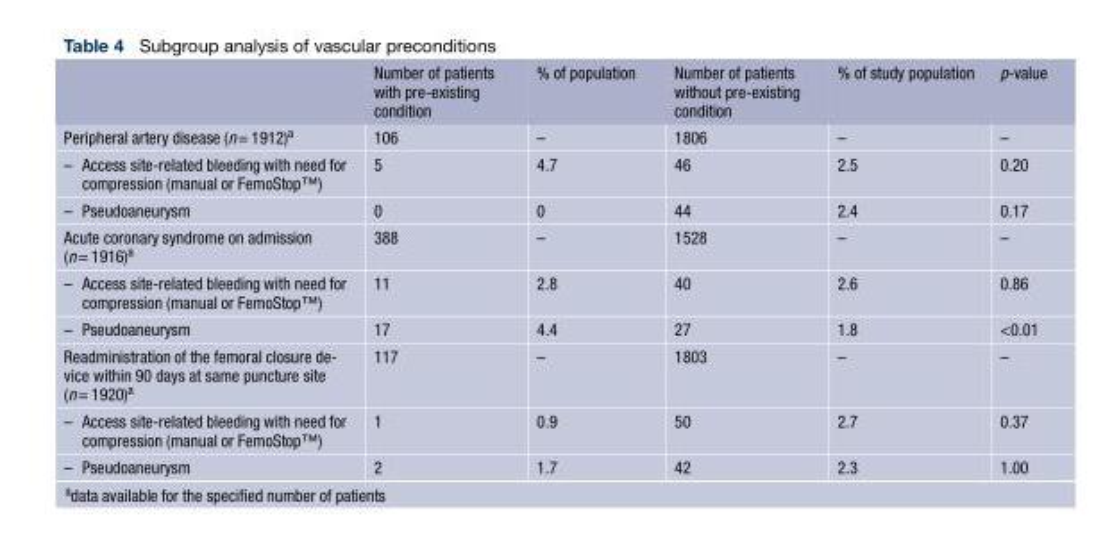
<table><thead><tr><td></td><td>Number of patients with pre-existing condition</td><td>% of population</td><td>Number of patients without pre-existing condition</td><td>% of study population</td><td>p-value</td></tr></thead><tbody><tr><td>Peripheral artery disease (n= 1912)<sup>a</sup></td><td>106</td><td>–</td><td>1806</td><td>–</td><td>–</td></tr><tr><td>– Access site-related bleeding with need for compression (manual or FemoStop™)</td><td>5</td><td>4.7</td><td>46</td><td>2.5</td><td>0.20</td></tr><tr><td>– Pseudoaneurysm</td><td>0</td><td>0</td><td>44</td><td>2.4</td><td>0.17</td></tr><tr><td>Acute coronary syndrome on admission (n= 1916)<sup>a</sup></td><td>388</td><td>–</td><td>1528</td><td>–</td><td>–</td></tr><tr><td>– Access site-related bleeding with need for compression (manual or FemoStop™)</td><td>11</td><td>2.8</td><td>40</td><td>2.6</td><td>0.86</td></tr><tr><td>– Pseudoaneurysm</td><td>17</td><td>4.4</td><td>27</td><td>1.8</td><td>&lt;0.01</td></tr><tr><td>Readministration of the femoral closure de- vice within 90 days at same puncture site (n= 1920)a</td><td>117</td><td>–</td><td>1803</td><td>–</td><td>–</td></tr><tr><td>– Access site-related bleeding with need for compression (manual or FemoStop™)</td><td>1</td><td>0.9</td><td>50</td><td>2.7</td><td>0.37</td></tr><tr><td>– Pseudoaneurysm</td><td>2</td><td>1.7</td><td>42</td><td>2.3</td><td>1.00</td></tr></tbody></table>